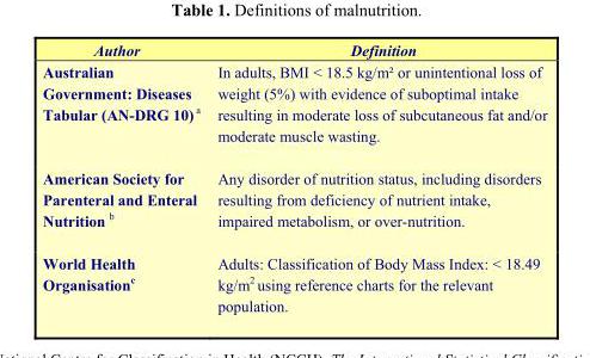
<table><thead><tr><td>Author</td><td>Definition</td></tr></thead><tbody><tr><td>Australian Government: Diseases Tabular (AN-DRG 10) <sup>a</sup></td><td>In adults, BMI &lt; 18.5 kg/m² or unintentional loss of weight (5%) with evidence of suboptimal intake resulting in moderate loss of subcutaneous fat and/or moderate muscle wasting.</td></tr><tr><td>American Society for Parenteral and Enteral Nutrition <sup>b</sup></td><td>Any disorder of nutrition status, including disorders resulting from deficiency of nutrient intake, impaired metabolism, or over-nutrition.</td></tr><tr><td>World Health Organisation<sup>c</sup></td><td>Adults: Classification of Body Mass Index: &lt; 18.49 kg/m<sup>2</sup> using reference charts for the relevant population.</td></tr></tbody></table>